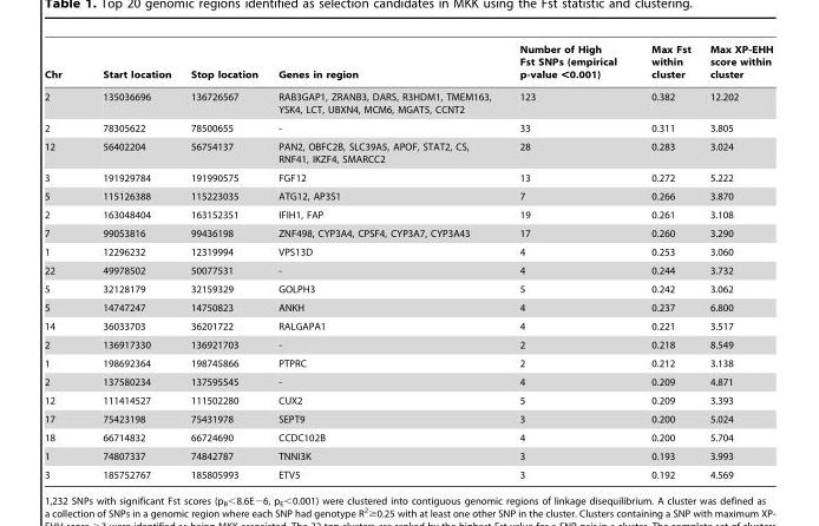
<table><thead><tr><td>Chr</td><td>Start location</td><td>Stop location</td><td>Genes in region</td><td>Number of High Fst SNPs (empirical p-value &lt;0.001)</td><td>Max Fst within cluster</td><td>Max XP-EHH score within cluster</td></tr></thead><tbody><tr><td>2</td><td>135036696</td><td>136726567</td><td>RAB3GAP1, ZRANB3, DARS, R3HDM1, TMEM163, YSK4, LCT, UBXN4, MCM6, MGAT5, CCNT2</td><td>123</td><td>0.382</td><td>12.202</td></tr><tr><td>2</td><td>78305622</td><td>78500655</td><td>-</td><td>33</td><td>0.311</td><td>3.805</td></tr><tr><td>12</td><td>56402204</td><td>56754137</td><td>PAN2, OBFC2B, SLC39A5, APOF, STAT2, CS, RNF41, IKZF4, SMARCC2</td><td>28</td><td>0.283</td><td>3.024</td></tr><tr><td>3</td><td>191929784</td><td>191990575</td><td>FGF12</td><td>13</td><td>0.272</td><td>5.222</td></tr><tr><td>5</td><td>115126388</td><td>115223035</td><td>ATG12, AP3S1</td><td>7</td><td>0.266</td><td>3.870</td></tr><tr><td>2</td><td>163048404</td><td>163152351</td><td>IFIH1, FAP</td><td>19</td><td>0.261</td><td>3.108</td></tr><tr><td>7</td><td>99053816</td><td>99436198</td><td>ZNF498, CYP3A4, CPSF4, CYP3A7, CYP3A43</td><td>17</td><td>0.260</td><td>3.290</td></tr><tr><td>1</td><td>12296232</td><td>12319994</td><td>VPS13D</td><td>4</td><td>0.253</td><td>3.060</td></tr><tr><td>22</td><td>49978502</td><td>50077531</td><td>-</td><td>4</td><td>0.244</td><td>3.732</td></tr><tr><td>5</td><td>32128179</td><td>32159329</td><td>GOLPH3</td><td>5</td><td>0.242</td><td>3.062</td></tr><tr><td>5</td><td>14747247</td><td>14750823</td><td>ANKH</td><td>4</td><td>0.237</td><td>6.800</td></tr><tr><td>14</td><td>36033703</td><td>36201722</td><td>RALGAPA1</td><td>4</td><td>0.221</td><td>3.517</td></tr><tr><td>2</td><td>136917330</td><td>136921703</td><td>-</td><td>2</td><td>0.218</td><td>8.549</td></tr><tr><td>1</td><td>198692364</td><td>198745866</td><td>PTPRC</td><td>2</td><td>0.212</td><td>3.138</td></tr><tr><td>2</td><td>137580234</td><td>137595545</td><td>-</td><td>4</td><td>0.209</td><td>4.871</td></tr><tr><td>12</td><td>111414527</td><td>111502280</td><td>CUX2</td><td>5</td><td>0.209</td><td>3.393</td></tr><tr><td>17</td><td>75423198</td><td>75431978</td><td>SEPT9</td><td>3</td><td>0.200</td><td>5.024</td></tr><tr><td>18</td><td>66714832</td><td>66724690</td><td>CCDC102B</td><td>4</td><td>0.200</td><td>5.704</td></tr><tr><td>1</td><td>74807337</td><td>74842787</td><td>TNNI3K</td><td>3</td><td>0.193</td><td>3.993</td></tr><tr><td>3</td><td>185752767</td><td>185805993</td><td>ETV5</td><td>3</td><td>0.192</td><td>4.569</td></tr></tbody></table>